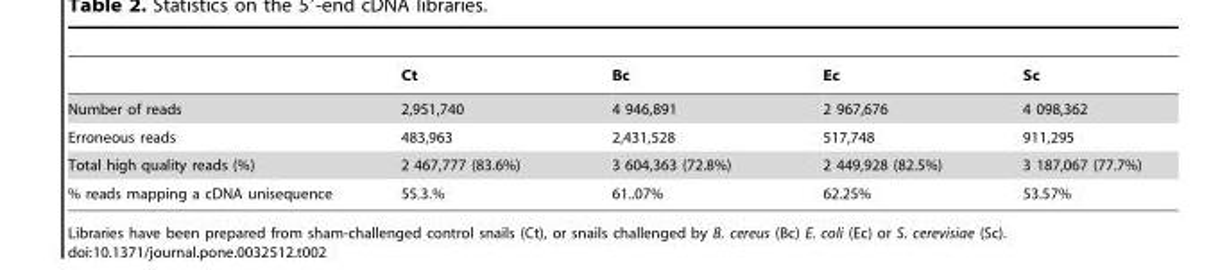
<table><thead><tr><td></td><td>Ct</td><td>Bc</td><td>Ec</td><td>Sc</td></tr></thead><tbody><tr><td>Number of reads</td><td>2,951,740</td><td>4 946,891</td><td>2 967,676</td><td>4 098,362</td></tr><tr><td>Erroneous reads</td><td>483,963</td><td>2,431,528</td><td>517,748</td><td>911,295</td></tr><tr><td>Total high quality reads (%)</td><td>2 467,777 (83.6%)</td><td>3 604,363 (72.8%)</td><td>2 449,928 (82.5%)</td><td>3 187,067 (77.7%)</td></tr><tr><td>% reads mapping a cDNA unisequence</td><td>55.3.%</td><td>61..07%</td><td>62.25%</td><td>53.57%</td></tr></tbody></table>